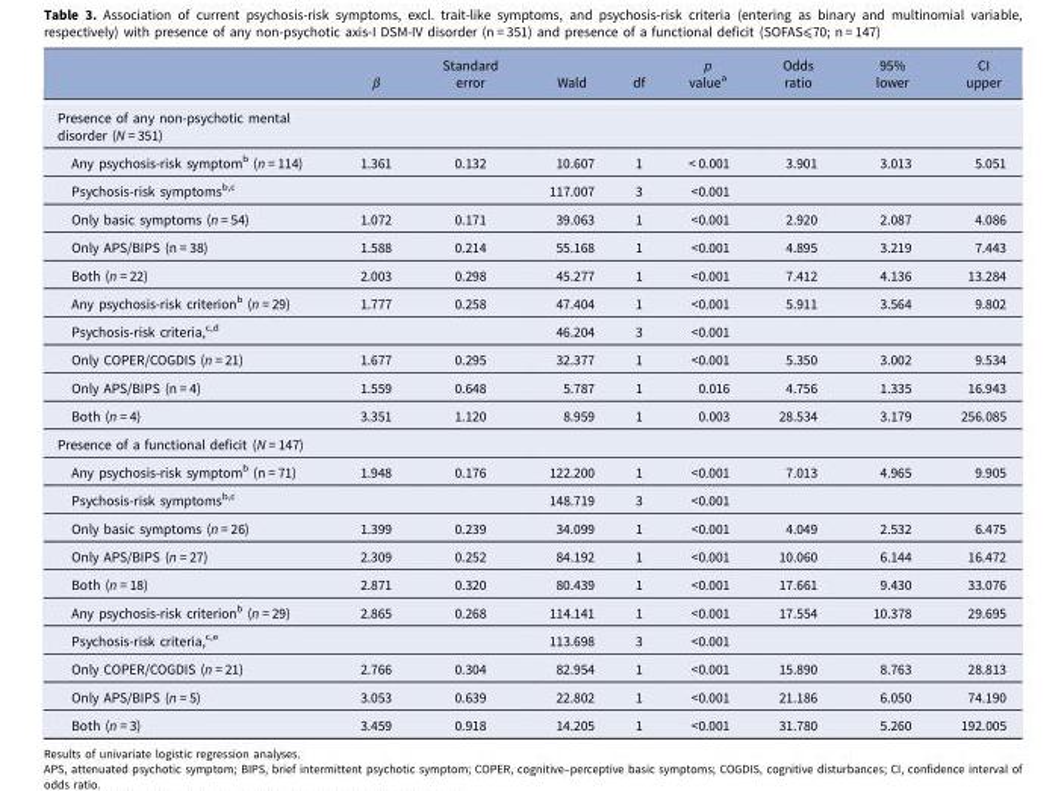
<table><thead><tr><td></td><td>β</td><td>Standard error</td><td>Wald</td><td>df</td><td>p value<sup>a</sup></td><td>Odds ratio</td><td>95% lower</td><td>CI upper</td></tr></thead><tbody><tr><td colspan="9">Presence of any non-psychotic mental disorder (N = 351)</td></tr><tr><td>Any psychosis-risk symptom<sup>b</sup> (n = 114)</td><td>1.361</td><td>0.132</td><td>10.607</td><td>1</td><td>&lt; 0.001</td><td>3.901</td><td>3.013</td><td>5.051</td></tr><tr><td>Psychosis-risk symptoms<sup>b,c</sup></td><td></td><td></td><td>117.007</td><td>3</td><td>&lt;0.001</td><td></td><td></td><td></td></tr><tr><td>Only basic symptoms (n = 54)</td><td>1.072</td><td>0.171</td><td>39.063</td><td>1</td><td>&lt;0.001</td><td>2.920</td><td>2.087</td><td>4.086</td></tr><tr><td>Only APS/BIPS (n = 38)</td><td>1.588</td><td>0.214</td><td>55.168</td><td>1</td><td>&lt;0.001</td><td>4.895</td><td>3.219</td><td>7.443</td></tr><tr><td>Both (n = 22)</td><td>2.003</td><td>0.298</td><td>45.277</td><td>1</td><td>&lt;0.001</td><td>7.412</td><td>4.136</td><td>13.284</td></tr><tr><td>Any psychosis-risk criterion<sup>b</sup> (n = 29)</td><td>1.777</td><td>0.258</td><td>47.404</td><td>1</td><td>&lt;0.001</td><td>5.911</td><td>3.564</td><td>9.802</td></tr><tr><td>Psychosis-risk criteria,<sup>c,d</sup></td><td></td><td></td><td>46.204</td><td>3</td><td>&lt;0.001</td><td></td><td></td><td></td></tr><tr><td>Only COPER/COGDIS (n = 21)</td><td>1.677</td><td>0.295</td><td>32.377</td><td>1</td><td>&lt;0.001</td><td>5.350</td><td>3.002</td><td>9.534</td></tr><tr><td>Only APS/BIPS (n = 4)</td><td>1.559</td><td>0.648</td><td>5.787</td><td>1</td><td>0.016</td><td>4.756</td><td>1.335</td><td>16.943</td></tr><tr><td>Both (n = 4)</td><td>3.351</td><td>1.120</td><td>8.959</td><td>1</td><td>0.003</td><td>28.534</td><td>3.179</td><td>256.085</td></tr><tr><td colspan="9">Presence of a functional deficit (N = 147)</td></tr><tr><td>Any psychosis-risk symptom<sup>b</sup> (n = 71)</td><td>1.948</td><td>0.176</td><td>122.200</td><td>1</td><td>&lt;0.001</td><td>7.013</td><td>4.965</td><td>9.905</td></tr><tr><td>Psychosis-risk symptoms<sup>b,c</sup></td><td></td><td></td><td>148.719</td><td>3</td><td>&lt;0.001</td><td></td><td></td><td></td></tr><tr><td>Only basic symptoms (n = 26)</td><td>1.399</td><td>0.239</td><td>34.099</td><td>1</td><td>&lt;0.001</td><td>4.049</td><td>2.532</td><td>6.475</td></tr><tr><td>Only APS/BIPS (n = 27)</td><td>2.309</td><td>0.252</td><td>84.192</td><td>1</td><td>&lt;0.001</td><td>10.060</td><td>6.144</td><td>16.472</td></tr><tr><td>Both (n = 18)</td><td>2.871</td><td>0.320</td><td>80.439</td><td>1</td><td>&lt;0.001</td><td>17.661</td><td>9.430</td><td>33.076</td></tr><tr><td>Any psychosis-risk criterion<sup>b</sup> (n = 29)</td><td>2.865</td><td>0.268</td><td>114.141</td><td>1</td><td>&lt;0.001</td><td>17.554</td><td>10.378</td><td>29.695</td></tr><tr><td>Psychosis-risk criteria,<sup>c,e</sup></td><td></td><td></td><td>113.698</td><td>3</td><td>&lt;0.001</td><td></td><td></td><td></td></tr><tr><td>Only COPER/COGDIS (n = 21)</td><td>2.766</td><td>0.304</td><td>82.954</td><td>1</td><td>&lt;0.001</td><td>15.890</td><td>8.763</td><td>28.813</td></tr><tr><td>Only APS/BIPS (n = 5)</td><td>3.053</td><td>0.639</td><td>22.802</td><td>1</td><td>&lt;0.001</td><td>21.186</td><td>6.050</td><td>74.190</td></tr><tr><td>Both (n = 3)</td><td>3.459</td><td>0.918</td><td>14.205</td><td>1</td><td>&lt;0.001</td><td>31.780</td><td>5.260</td><td>192.005</td></tr></tbody></table>